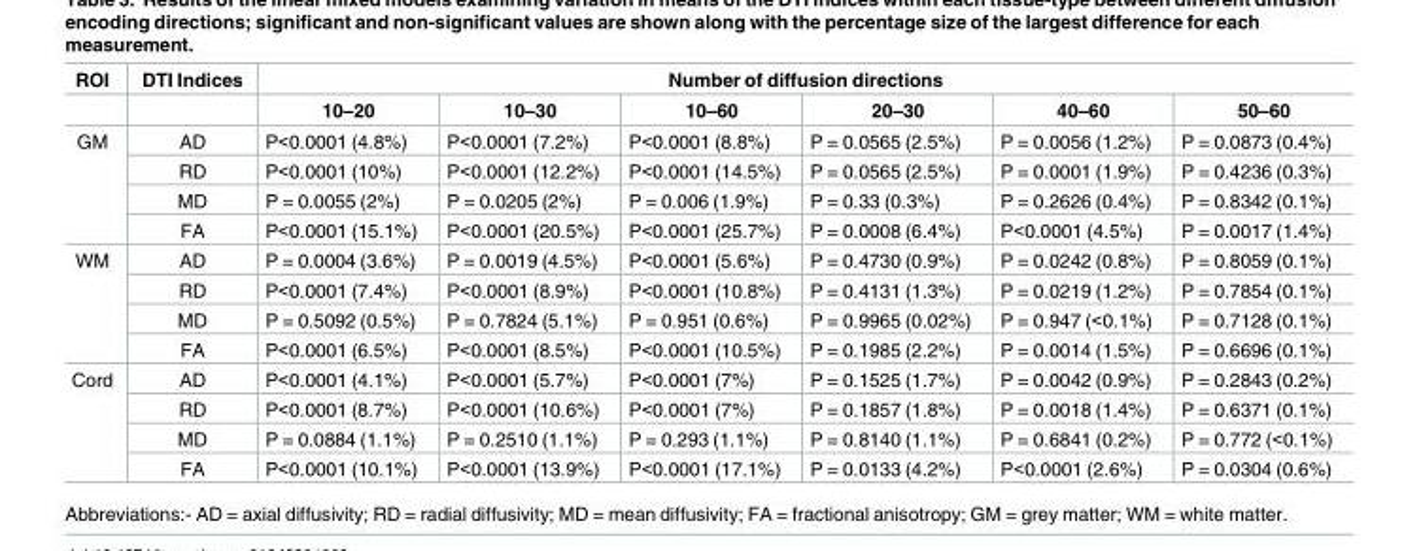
<table><thead><tr><td rowspan="2">ROI</td><td rowspan="2">DTI Indices</td><td colspan="6">Number of diffusion directions</td></tr><tr><td>10–20</td><td>10–30</td><td>10–60</td><td>20–30</td><td>40–60</td><td>50–60</td></tr></thead><tbody><tr><td rowspan="4">GM</td><td>AD</td><td>P&lt;0.0001 (4.8%)</td><td>P&lt;0.0001 (7.2%)</td><td>P&lt;0.0001 (8.8%)</td><td>P = 0.0565 (2.5%)</td><td>P = 0.0056 (1.2%)</td><td>P = 0.0873 (0.4%)</td></tr><tr><td>RD</td><td>P&lt;0.0001 (10%)</td><td>P&lt;0.0001 (12.2%)</td><td>P&lt;0.0001 (14.5%)</td><td>P = 0.0565 (2.5%)</td><td>P = 0.0001 (1.9%)</td><td>P = 0.4236 (0.3%)</td></tr><tr><td>MD</td><td>P = 0.0055 (2%)</td><td>P = 0.0205 (2%)</td><td>P = 0.006 (1.9%)</td><td>P = 0.33 (0.3%)</td><td>P = 0.2626 (0.4%)</td><td>P = 0.8342 (0.1%)</td></tr><tr><td>FA</td><td>P&lt;0.0001 (15.1%)</td><td>P&lt;0.0001 (20.5%)</td><td>P&lt;0.0001 (25.7%)</td><td>P = 0.0008 (6.4%)</td><td>P&lt;0.0001 (4.5%)</td><td>P = 0.0017 (1.4%)</td></tr><tr><td rowspan="4">WM</td><td>AD</td><td>P = 0.0004 (3.6%)</td><td>P = 0.0019 (4.5%)</td><td>P&lt;0.0001 (5.6%)</td><td>P = 0.4730 (0.9%)</td><td>P = 0.0242 (0.8%)</td><td>P = 0.8059 (0.1%)</td></tr><tr><td>RD</td><td>P&lt;0.0001 (7.4%)</td><td>P&lt;0.0001 (8.9%)</td><td>P&lt;0.0001 (10.8%)</td><td>P = 0.4131 (1.3%)</td><td>P = 0.0219 (1.2%)</td><td>P = 0.7854 (0.1%)</td></tr><tr><td>MD</td><td>P = 0.5092 (0.5%)</td><td>P = 0.7824 (5.1%)</td><td>P = 0.951 (0.6%)</td><td>P = 0.9965 (0.02%)</td><td>P = 0.947 (&lt;0.1%)</td><td>P = 0.7128 (0.1%)</td></tr><tr><td>FA</td><td>P&lt;0.0001 (6.5%)</td><td>P&lt;0.0001 (8.5%)</td><td>P&lt;0.0001 (10.5%)</td><td>P = 0.1985 (2.2%)</td><td>P = 0.0014 (1.5%)</td><td>P = 0.6696 (0.1%)</td></tr><tr><td rowspan="4">Cord</td><td>AD</td><td>P&lt;0.0001 (4.1%)</td><td>P&lt;0.0001 (5.7%)</td><td>P&lt;0.0001 (7%)</td><td>P = 0.1525 (1.7%)</td><td>P = 0.0042 (0.9%)</td><td>P = 0.2843 (0.2%)</td></tr><tr><td>RD</td><td>P&lt;0.0001 (8.7%)</td><td>P&lt;0.0001 (10.6%)</td><td>P&lt;0.0001 (7%)</td><td>P = 0.1857 (1.8%)</td><td>P = 0.0018 (1.4%)</td><td>P = 0.6371 (0.1%)</td></tr><tr><td>MD</td><td>P = 0.0884 (1.1%)</td><td>P = 0.2510 (1.1%)</td><td>P = 0.293 (1.1%)</td><td>P = 0.8140 (1.1%)</td><td>P = 0.6841 (0.2%)</td><td>P = 0.772 (&lt;0.1%)</td></tr><tr><td>FA</td><td>P&lt;0.0001 (10.1%)</td><td>P&lt;0.0001 (13.9%)</td><td>P&lt;0.0001 (17.1%)</td><td>P = 0.0133 (4.2%)</td><td>P&lt;0.0001 (2.6%)</td><td>P = 0.0304 (0.6%)</td></tr></tbody></table>